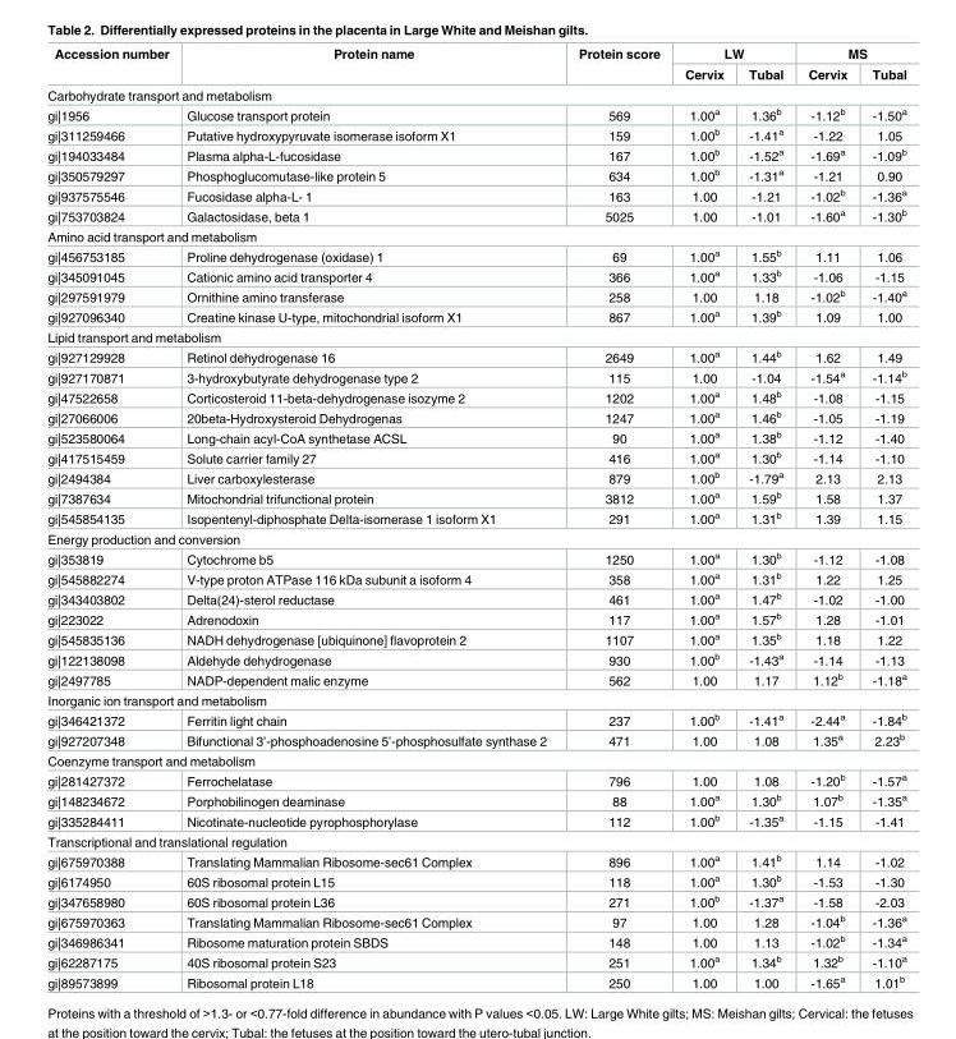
<table><thead><tr><td rowspan="2">Accession number</td><td rowspan="2">Protein name</td><td rowspan="2">Protein score</td><td colspan="2">LW</td><td colspan="2">MS</td></tr><tr><td>Cervix</td><td>Tubal</td><td>Cervix</td><td>Tubal</td></tr></thead><tbody><tr><td colspan="7">Carbohydrate transport and metabolism</td></tr><tr><td>gi|1956</td><td>Glucose transport protein</td><td>569</td><td>1.00<sup>a</sup></td><td>1.36<sup>b</sup></td><td>-1.12<sup>b</sup></td><td>-1.50<sup>a</sup></td></tr><tr><td>gi|311259466</td><td>Putative hydroxypyruvate isomerase isoform X1</td><td>159</td><td>1.00<sup>b</sup></td><td>-1.41<sup>a</sup></td><td>-1.22</td><td>1.05</td></tr><tr><td>gi|194033484</td><td>Plasma alpha-L-fucosidase</td><td>167</td><td>1.00<sup>b</sup></td><td>-1.52<sup>a</sup></td><td>-1.69<sup>a</sup></td><td>-1.09<sup>b</sup></td></tr><tr><td>gi|350579297</td><td>Phosphoglucomutase-like protein 5</td><td>634</td><td>1.00<sup>b</sup></td><td>-1.31<sup>a</sup></td><td>-1.21</td><td>0.90</td></tr><tr><td>gi|937575546</td><td>Fucosidase alpha-L- 1</td><td>163</td><td>1.00</td><td>-1.21</td><td>-1.02<sup>b</sup></td><td>-1.36<sup>a</sup></td></tr><tr><td>gi|753703824</td><td>Galactosidase, beta 1</td><td>5025</td><td>1.00</td><td>-1.01</td><td>-1.60<sup>a</sup></td><td>-1.30<sup>b</sup></td></tr><tr><td colspan="7">Amino acid transport and metabolism</td></tr><tr><td>gi|456753185</td><td>Proline dehydrogenase (oxidase) 1</td><td>69</td><td>1.00<sup>a</sup></td><td>1.55<sup>b</sup></td><td>1.11</td><td>1.06</td></tr><tr><td>gi|345091045</td><td>Cationic amino acid transporter 4</td><td>366</td><td>1.00<sup>a</sup></td><td>1.33<sup>b</sup></td><td>-1.06</td><td>-1.15</td></tr><tr><td>gi|297591979</td><td>Ornithine amino transferase</td><td>258</td><td>1.00</td><td>1.18</td><td>-1.02<sup>b</sup></td><td>-1.40<sup>a</sup></td></tr><tr><td>gi|927096340</td><td>Creatine kinase U-type, mitochondrial isoform X1</td><td>867</td><td>1.00<sup>a</sup></td><td>1.39<sup>b</sup></td><td>1.09</td><td>1.00</td></tr><tr><td colspan="7">Lipid transport and metabolism</td></tr><tr><td>gi|927129928</td><td>Retinol dehydrogenase 16</td><td>2649</td><td>1.00<sup>a</sup></td><td>1.44<sup>b</sup></td><td>1.62</td><td>1.49</td></tr><tr><td>gi|927170871</td><td>3-hydroxybutyrate dehydrogenase type 2</td><td>115</td><td>1.00</td><td>-1.04</td><td>-1.54<sup>a</sup></td><td>-1.14<sup>b</sup></td></tr><tr><td>gi|47522658</td><td>Corticosteroid 11-beta-dehydrogenase isozyme 2</td><td>1202</td><td>1.00<sup>a</sup></td><td>1.48<sup>b</sup></td><td>-1.08</td><td>-1.15</td></tr><tr><td>gi|27066006</td><td>20beta-Hydroxysteroid Dehydrogenas</td><td>1247</td><td>1.00<sup>a</sup></td><td>1.46<sup>b</sup></td><td>-1.05</td><td>-1.19</td></tr><tr><td>gi|523580064</td><td>Long-chain acyl-CoA synthetase ACSL</td><td>90</td><td>1.00<sup>a</sup></td><td>1.38<sup>b</sup></td><td>-1.12</td><td>-1.40</td></tr><tr><td>gi|417515459</td><td>Solute carrier family 27</td><td>416</td><td>1.00<sup>a</sup></td><td>1.30<sup>b</sup></td><td>-1.14</td><td>-1.10</td></tr><tr><td>gi|2494384</td><td>Liver carboxylesterase</td><td>879</td><td>1.00<sup>b</sup></td><td>-1.79<sup>a</sup></td><td>2.13</td><td>2.13</td></tr><tr><td>gi|7387634</td><td>Mitochondrial trifunctional protein</td><td>3812</td><td>1.00<sup>a</sup></td><td>1.59<sup>b</sup></td><td>1.58</td><td>1.37</td></tr><tr><td>gi|545854135</td><td>Isopentenyl-diphosphate Delta-isomerase 1 isoform X1</td><td>291</td><td>1.00<sup>a</sup></td><td>1.31<sup>b</sup></td><td>1.39</td><td>1.15</td></tr><tr><td colspan="7">Energy production and conversion</td></tr><tr><td>gi|353819</td><td>Cytochrome b5</td><td>1250</td><td>1.00<sup>a</sup></td><td>1.30<sup>b</sup></td><td>-1.12</td><td>-1.08</td></tr><tr><td>gi|545882274</td><td>V-type proton ATPase 116 kDa subunit a isoform 4</td><td>358</td><td>1.00<sup>a</sup></td><td>1.31<sup>b</sup></td><td>1.22</td><td>1.25</td></tr><tr><td>gi|343403802</td><td>Delta(24)-sterol reductase</td><td>461</td><td>1.00<sup>a</sup></td><td>1.47<sup>b</sup></td><td>-1.02</td><td>-1.00</td></tr><tr><td>gi|223022</td><td>Adrenodoxin</td><td>117</td><td>1.00<sup>a</sup></td><td>1.57<sup>b</sup></td><td>1.28</td><td>-1.01</td></tr><tr><td>gi|545835136</td><td>NADH dehydrogenase [ubiquinone] flavoprotein 2</td><td>1107</td><td>1.00<sup>a</sup></td><td>1.35<sup>b</sup></td><td>1.18</td><td>1.22</td></tr><tr><td>gi|122138098</td><td>Aldehyde dehydrogenase</td><td>930</td><td>1.00<sup>b</sup></td><td>-1.43<sup>a</sup></td><td>-1.14</td><td>-1.13</td></tr><tr><td>gi|2497785</td><td>NADP-dependent malic enzyme</td><td>562</td><td>1.00</td><td>1.17</td><td>1.12<sup>b</sup></td><td>-1.18<sup>a</sup></td></tr><tr><td colspan="7">Inorganic ion transport and metabolism</td></tr><tr><td>gi|346421372</td><td>Ferritin light chain</td><td>237</td><td>1.00<sup>b</sup></td><td>-1.41<sup>a</sup></td><td>-2.44<sup>a</sup></td><td>-1.84<sup>b</sup></td></tr><tr><td>gi|927207348</td><td>Bifunctional 3’-phosphoadenosine 5’-phosphosulfate synthase 2</td><td>471</td><td>1.00</td><td>1.08</td><td>1.35<sup>a</sup></td><td>2.23<sup>b</sup></td></tr><tr><td colspan="7">Coenzyme transport and metabolism</td></tr><tr><td>gi|281427372</td><td>Ferrochelatase</td><td>796</td><td>1.00</td><td>1.08</td><td>-1.20<sup>b</sup></td><td>-1.57<sup>a</sup></td></tr><tr><td>gi|148234672</td><td>Porphobilinogen deaminase</td><td>88</td><td>1.00<sup>a</sup></td><td>1.30<sup>b</sup></td><td>1.07<sup>b</sup></td><td>-1.35<sup>a</sup></td></tr><tr><td>gi|335284411</td><td>Nicotinate-nucleotide pyrophosphorylase</td><td>112</td><td>1.00<sup>b</sup></td><td>-1.35<sup>a</sup></td><td>-1.15</td><td>-1.41</td></tr><tr><td colspan="7">Transcriptional and translational regulation</td></tr><tr><td>gi|675970388</td><td>Translating Mammalian Ribosome-sec61 Complex</td><td>896</td><td>1.00<sup>a</sup></td><td>1.41<sup>b</sup></td><td>1.14</td><td>-1.02</td></tr><tr><td>gi|6174950</td><td>60S ribosomal protein L15</td><td>118</td><td>1.00<sup>a</sup></td><td>1.30<sup>b</sup></td><td>-1.53</td><td>-1.30</td></tr><tr><td>gi|347658980</td><td>60S ribosomal protein L36</td><td>271</td><td>1.00<sup>b</sup></td><td>-1.37<sup>a</sup></td><td>-1.58</td><td>-2.03</td></tr><tr><td>gi|675970363</td><td>Translating Mammalian Ribosome-sec61 Complex</td><td>97</td><td>1.00</td><td>1.28</td><td>-1.04<sup>b</sup></td><td>-1.36<sup>a</sup></td></tr><tr><td>gi|346986341</td><td>Ribosome maturation protein SBDS</td><td>148</td><td>1.00</td><td>1.13</td><td>-1.02<sup>b</sup></td><td>-1.34<sup>a</sup></td></tr><tr><td>gi|62287175</td><td>40S ribosomal protein S23</td><td>251</td><td>1.00<sup>a</sup></td><td>1.34<sup>b</sup></td><td>1.32<sup>b</sup></td><td>-1.10<sup>a</sup></td></tr><tr><td>gi|89573899</td><td>Ribosomal protein L18</td><td>250</td><td>1.00</td><td>1.00</td><td>-1.65<sup>a</sup></td><td>1.01<sup>b</sup></td></tr></tbody></table>